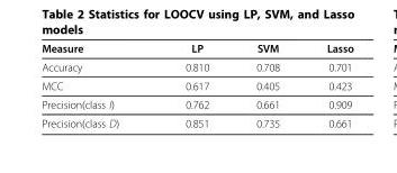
<table><thead><tr><td>Measure</td><td>LP</td><td>SVM</td><td>Lasso</td></tr></thead><tbody><tr><td>Accuracy</td><td>0.810</td><td>0.708</td><td>0.701</td></tr><tr><td>MCC</td><td>0.617</td><td>0.405</td><td>0.423</td></tr><tr><td>Precision(class I)</td><td>0.762</td><td>0.661</td><td>0.909</td></tr><tr><td>Precision(class D)</td><td>0.851</td><td>0.735</td><td>0.661</td></tr></tbody></table>